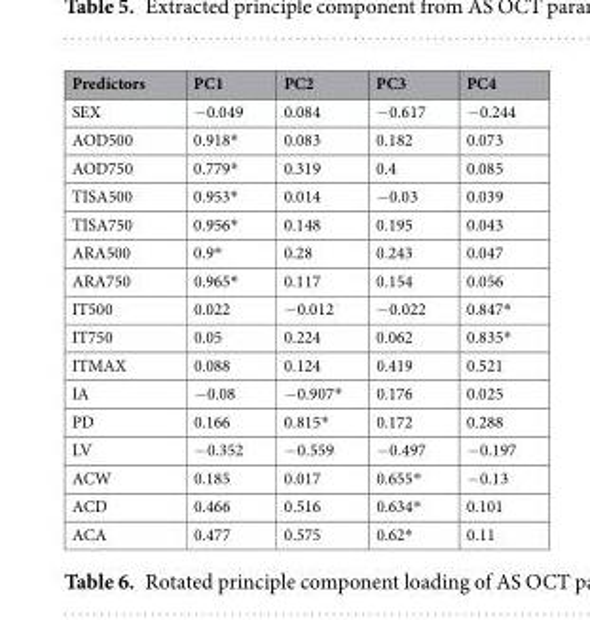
<table><thead><tr><td>Predictors</td><td>PC1</td><td>PC2</td><td>PC3</td><td>PC4</td></tr></thead><tbody><tr><td>SEX</td><td>−0.049</td><td>0.084</td><td>−0.617</td><td>−0.244</td></tr><tr><td>AOD500</td><td>0.918*</td><td>0.083</td><td>0.182</td><td>0.073</td></tr><tr><td>AOD750</td><td>0.779*</td><td>0.319</td><td>0.4</td><td>0.085</td></tr><tr><td>TISA500</td><td>0.953*</td><td>0.014</td><td>−0.03</td><td>0.039</td></tr><tr><td>TISA750</td><td>0.956*</td><td>0.148</td><td>0.195</td><td>0.043</td></tr><tr><td>ARA500</td><td>0.9*</td><td>0.28</td><td>0.243</td><td>0.047</td></tr><tr><td>ARA750</td><td>0.965*</td><td>0.117</td><td>0.154</td><td>0.056</td></tr><tr><td>IT500</td><td>0.022</td><td>−0.012</td><td>−0.022</td><td>0.847*</td></tr><tr><td>IT750</td><td>0.05</td><td>0.224</td><td>0.062</td><td>0.835*</td></tr><tr><td>ITMAX</td><td>0.088</td><td>0.124</td><td>0.419</td><td>0.521</td></tr><tr><td>IA</td><td>−0.08</td><td>−0.907*</td><td>0.176</td><td>0.025</td></tr><tr><td>PD</td><td>0.166</td><td>0.815*</td><td>0.172</td><td>0.288</td></tr><tr><td>LV</td><td>−0.352</td><td>−0.559</td><td>−0.497</td><td>−0.197</td></tr><tr><td>ACW</td><td>0.185</td><td>0.017</td><td>0.655*</td><td>−0.13</td></tr><tr><td>ACD</td><td>0.466</td><td>0.516</td><td>0.634*</td><td>0.101</td></tr><tr><td>ACA</td><td>0.477</td><td>0.575</td><td>0.62*</td><td>0.11</td></tr></tbody></table>